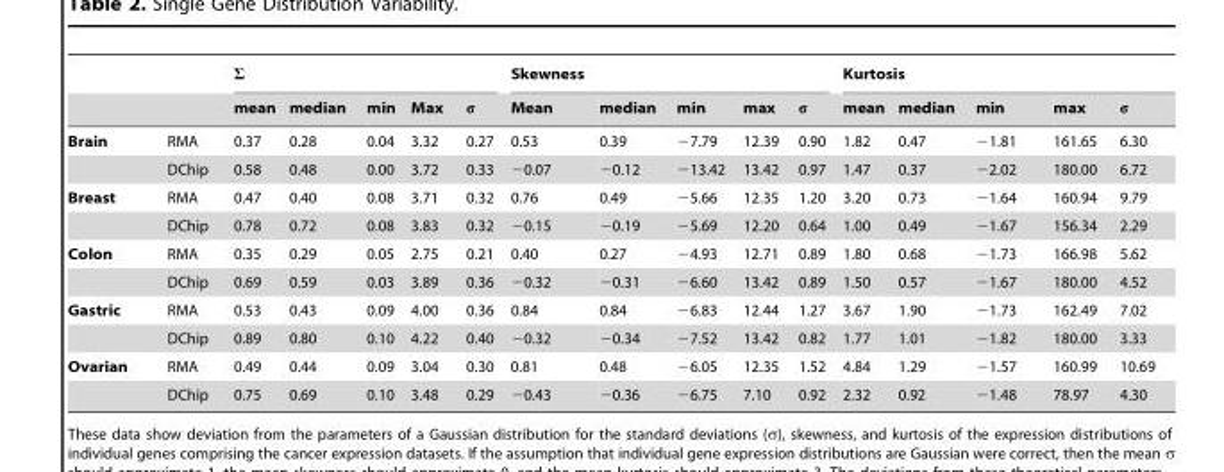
<table><thead><tr><td rowspan="2"></td><td rowspan="2"></td><td colspan="5">Σ</td><td colspan="5">Skewness</td><td colspan="5">Kurtosis</td></tr><tr><td>mean</td><td>median</td><td>min</td><td>Max</td><td>σ</td><td>Mean</td><td>median</td><td>min</td><td>max</td><td>σ</td><td>mean</td><td>median</td><td>min</td><td>max</td><td>σ</td></tr></thead><tbody><tr><td rowspan="2">Brain</td><td>RMA</td><td>0.37</td><td>0.28</td><td>0.04</td><td>3.32</td><td>0.27</td><td>0.53</td><td>0.39</td><td>−7.79</td><td>12.39</td><td>0.90</td><td>1.82</td><td>0.47</td><td>−1.81</td><td>161.65</td><td>6.30</td></tr><tr><td>DChip</td><td>0.58</td><td>0.48</td><td>0.00</td><td>3.72</td><td>0.33</td><td>−0.07</td><td>−0.12</td><td>−13.42</td><td>13.42</td><td>0.97</td><td>1.47</td><td>0.37</td><td>−2.02</td><td>180.00</td><td>6.72</td></tr><tr><td rowspan="2">Breast</td><td>RMA</td><td>0.47</td><td>0.40</td><td>0.08</td><td>3.71</td><td>0.32</td><td>0.76</td><td>0.49</td><td>−5.66</td><td>12.35</td><td>1.20</td><td>3.20</td><td>0.73</td><td>−1.64</td><td>160.94</td><td>9.79</td></tr><tr><td>DChip</td><td>0.78</td><td>0.72</td><td>0.08</td><td>3.83</td><td>0.32</td><td>−0.15</td><td>−0.19</td><td>−5.69</td><td>12.20</td><td>0.64</td><td>1.00</td><td>0.49</td><td>−1.67</td><td>156.34</td><td>2.29</td></tr><tr><td rowspan="2">Colon</td><td>RMA</td><td>0.35</td><td>0.29</td><td>0.05</td><td>2.75</td><td>0.21</td><td>0.40</td><td>0.27</td><td>−4.93</td><td>12.71</td><td>0.89</td><td>1.80</td><td>0.68</td><td>−1.73</td><td>166.98</td><td>5.62</td></tr><tr><td>DChip</td><td>0.69</td><td>0.59</td><td>0.03</td><td>3.89</td><td>0.36</td><td>−0.32</td><td>−0.31</td><td>−6.60</td><td>13.42</td><td>0.89</td><td>1.50</td><td>0.57</td><td>−1.67</td><td>180.00</td><td>4.52</td></tr><tr><td rowspan="2">Gastric</td><td>RMA</td><td>0.53</td><td>0.43</td><td>0.09</td><td>4.00</td><td>0.36</td><td>0.84</td><td>0.84</td><td>−6.83</td><td>12.44</td><td>1.27</td><td>3.67</td><td>1.90</td><td>−1.73</td><td>162.49</td><td>7.02</td></tr><tr><td>DChip</td><td>0.89</td><td>0.80</td><td>0.10</td><td>4.22</td><td>0.40</td><td>−0.32</td><td>−0.34</td><td>−7.52</td><td>13.42</td><td>0.82</td><td>1.77</td><td>1.01</td><td>−1.82</td><td>180.00</td><td>3.33</td></tr><tr><td rowspan="2">Ovarian</td><td>RMA</td><td>0.49</td><td>0.44</td><td>0.09</td><td>3.04</td><td>0.30</td><td>0.81</td><td>0.48</td><td>−6.05</td><td>12.35</td><td>1.52</td><td>4.84</td><td>1.29</td><td>−1.57</td><td>160.99</td><td>10.69</td></tr><tr><td>DChip</td><td>0.75</td><td>0.69</td><td>0.10</td><td>3.48</td><td>0.29</td><td>−0.43</td><td>−0.36</td><td>−6.75</td><td>7.10</td><td>0.92</td><td>2.32</td><td>0.92</td><td>−1.48</td><td>78.97</td><td>4.30</td></tr></tbody></table>